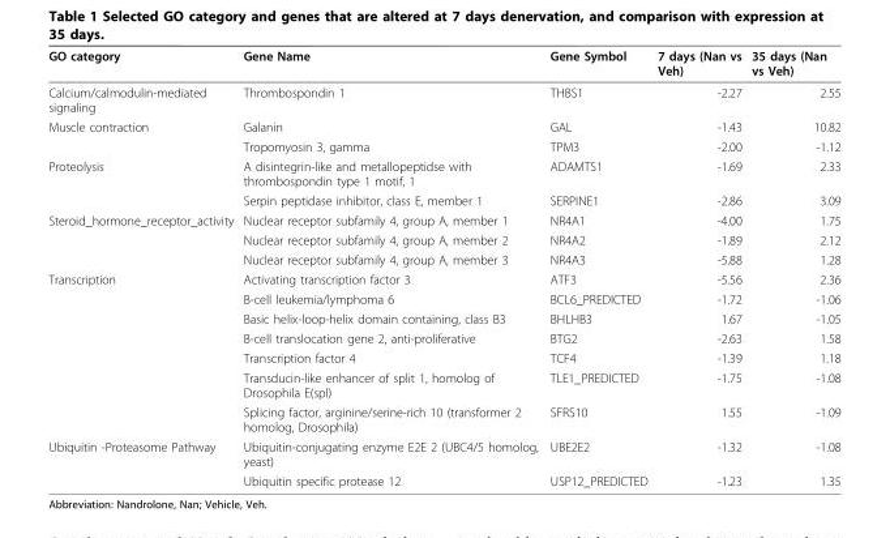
<table><thead><tr><td>GO category</td><td>Gene Name</td><td>Gene Symbol</td><td>7 days (Nan vs Veh)</td><td>35 days (Nan vs Veh)</td></tr></thead><tbody><tr><td>Calcium/calmodulin-mediated signaling</td><td>Thrombospondin 1</td><td>THBS1</td><td>-2.27</td><td>2.55</td></tr><tr><td rowspan="2">Muscle contraction</td><td>Galanin</td><td>GAL</td><td>-1.43</td><td>10.82</td></tr><tr><td>Tropomyosin 3, gamma</td><td>TPM3</td><td>-2.00</td><td>-1.12</td></tr><tr><td rowspan="2">Proteolysis</td><td>A disintegrin-like and metallopeptidse with thrombospondin type 1 motif, 1</td><td>ADAMTS1</td><td>-1.69</td><td>2.33</td></tr><tr><td>Serpin peptidase inhibitor, class E, member 1</td><td>SERPINE1</td><td>-2.86</td><td>3.09</td></tr><tr><td rowspan="3">Steroid_hormone_receptor_activity</td><td>Nuclear receptor subfamily 4, group A, member 1</td><td>NR4A1</td><td>-4.00</td><td>1.75</td></tr><tr><td>Nuclear receptor subfamily 4, group A, member 2</td><td>NR4A2</td><td>-1.89</td><td>2.12</td></tr><tr><td>Nuclear receptor subfamily 4, group A, member 3</td><td>NR4A3</td><td>-5.88</td><td>1.28</td></tr><tr><td rowspan="7">Transcription</td><td>Activating transcription factor 3</td><td>ATF3</td><td>-5.56</td><td>2.36</td></tr><tr><td>B-cell leukemia/lymphoma 6</td><td>BCL6_PREDICTED</td><td>-1.72</td><td>-1.06</td></tr><tr><td>Basic helix-loop-helix domain containing, class B3</td><td>BHLHB3</td><td>1.67</td><td>-1.05</td></tr><tr><td>B-cell translocation gene 2, anti-proliferative</td><td>BTG2</td><td>-2.63</td><td>1.58</td></tr><tr><td>Transcription factor 4</td><td>TCF4</td><td>-1.39</td><td>1.18</td></tr><tr><td>Transducin-like enhancer of split 1, homolog of Drosophila E(spl)</td><td>TLE1_PREDICTED</td><td>-1.75</td><td>-1.08</td></tr><tr><td>Splicing factor, arginine/serine-rich 10 (transformer 2 homolog, Drosophila)</td><td>SFRS10</td><td>1.55</td><td>-1.09</td></tr><tr><td rowspan="2">Ubiquitin -Proteasome Pathway</td><td>Ubiquitin-conjugating enzyme E2E 2 (UBC4/5 homolog, yeast)</td><td>UBE2E2</td><td>-1.32</td><td>-1.08</td></tr><tr><td>Ubiquitin specific protease 12</td><td>USP12_PREDICTED</td><td>-1.23</td><td>1.35</td></tr></tbody></table>